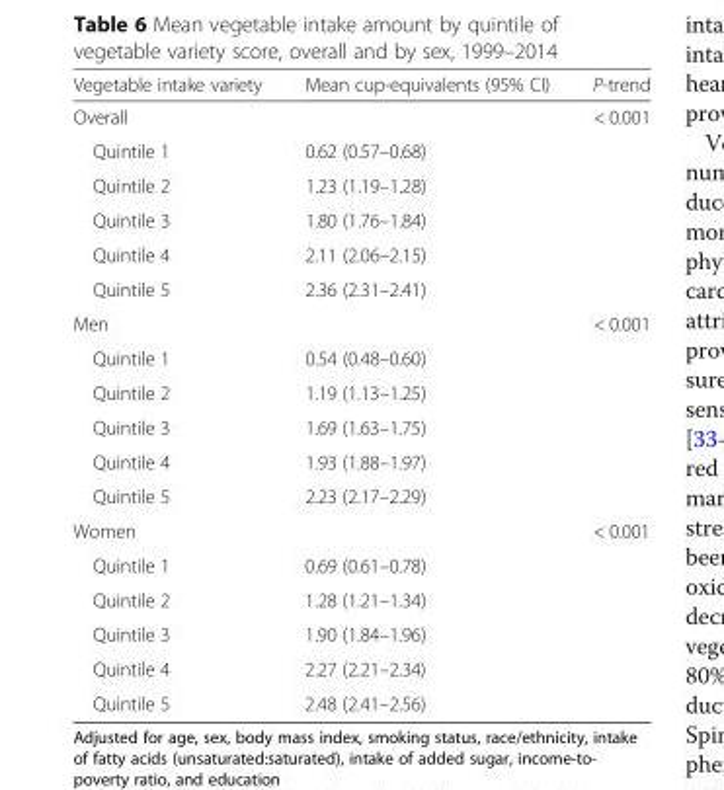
<table><thead><tr><td>Vegetable intake variety</td><td>Mean cup-equivalents (95% CI)</td><td>P-trend</td></tr></thead><tbody><tr><td>Overall</td><td></td><td>&lt; 0.001</td></tr><tr><td>Quintile 1</td><td>0.62 (0.57–0.68)</td><td></td></tr><tr><td>Quintile 2</td><td>1.23 (1.19–1.28)</td><td></td></tr><tr><td>Quintile 3</td><td>1.80 (1.76–1.84)</td><td></td></tr><tr><td>Quintile 4</td><td>2.11 (2.06–2.15)</td><td></td></tr><tr><td>Quintile 5</td><td>2.36 (2.31–2.41)</td><td></td></tr><tr><td>Men</td><td></td><td>&lt; 0.001</td></tr><tr><td>Quintile 1</td><td>0.54 (0.48–0.60)</td><td></td></tr><tr><td>Quintile 2</td><td>1.19 (1.13–1.25)</td><td></td></tr><tr><td>Quintile 3</td><td>1.69 (1.63–1.75)</td><td></td></tr><tr><td>Quintile 4</td><td>1.93 (1.88–1.97)</td><td></td></tr><tr><td>Quintile 5</td><td>2.23 (2.17–2.29)</td><td></td></tr><tr><td>Women</td><td></td><td>&lt; 0.001</td></tr><tr><td>Quintile 1</td><td>0.69 (0.61–0.78)</td><td></td></tr><tr><td>Quintile 2</td><td>1.28 (1.21–1.34)</td><td></td></tr><tr><td>Quintile 3</td><td>1.90 (1.84–1.96)</td><td></td></tr><tr><td>Quintile 4</td><td>2.27 (2.21–2.34)</td><td></td></tr><tr><td>Quintile 5</td><td>2.48 (2.41–2.56)</td><td></td></tr></tbody></table>